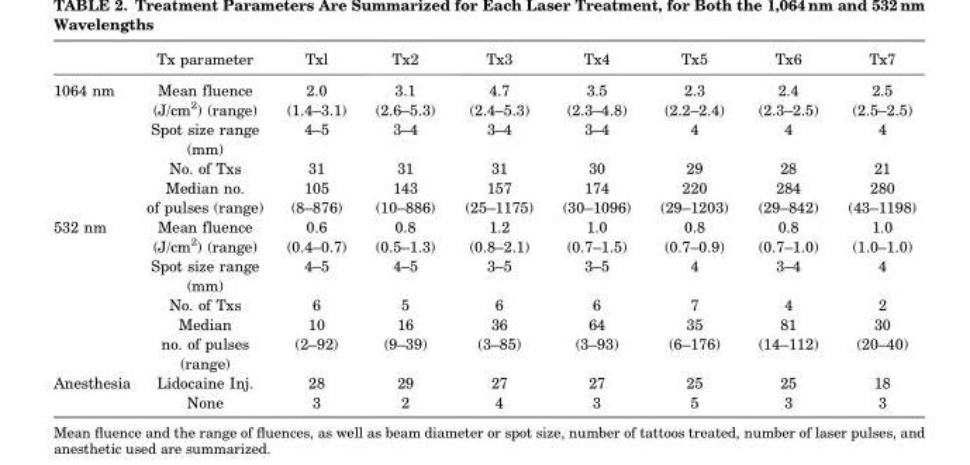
<table><thead><tr><td></td><td>Tx parameter</td><td>Txl</td><td>Tx2</td><td>Tx3</td><td>Tx4</td><td>Tx5</td><td>Tx6</td><td>Tx7</td></tr></thead><tbody><tr><td rowspan="4">1064 nm</td><td>Mean fluence (J/cm<sup>2</sup>) (range)</td><td>2.0 (1.4–3.1)</td><td>3.1 (2.6–5.3)</td><td>4.7 (2.4–5.3)</td><td>3.5 (2.3–4.8)</td><td>2.3 (2.2–2.4)</td><td>2.4 (2.3–2.5)</td><td>2.5 (2.5–2.5)</td></tr><tr><td>Spot size range (mm)</td><td>4–5</td><td>3–4</td><td>3–4</td><td>3–4</td><td>4</td><td>4</td><td>4</td></tr><tr><td>No. of Txs</td><td>31</td><td>31</td><td>31</td><td>30</td><td>29</td><td>28</td><td>21</td></tr><tr><td>Median no. of pulses (range)</td><td>105 (8–876)</td><td>143 (10–886)</td><td>157 (25–1175)</td><td>174 (30–1096)</td><td>220 (29–1203)</td><td>284 (29–842)</td><td>280 (43–1198)</td></tr><tr><td rowspan="4">532 nm</td><td>Mean fluence (J/cm<sup>2</sup>) (range)</td><td>0.6 (0.4–0.7)</td><td>0.8 (0.5–1.3)</td><td>1.2 (0.8–2.1)</td><td>1.0 (0.7–1.5)</td><td>0.8 (0.7–0.9)</td><td>0.8 (0.7–1.0)</td><td>1.0 (1.0–1.0)</td></tr><tr><td>Spot size range (mm)</td><td>4–5</td><td>4–5</td><td>3–5</td><td>3–5</td><td>4</td><td>3–4</td><td>4</td></tr><tr><td>No. of Txs</td><td>6</td><td>5</td><td>6</td><td>6</td><td>7</td><td>4</td><td>2</td></tr><tr><td>Median no. of pulses (range)</td><td>10 (2–92)</td><td>16 (9–39)</td><td>36 (3–85)</td><td>64 (3–93)</td><td>35 (6–176)</td><td>81 (14–112)</td><td>30 (20–40)</td></tr><tr><td rowspan="2">Anesthesia</td><td>Lidocaine Inj.</td><td>28</td><td>29</td><td>27</td><td>27</td><td>25</td><td>25</td><td>18</td></tr><tr><td>None</td><td>3</td><td>2</td><td>4</td><td>3</td><td>5</td><td>3</td><td>3</td></tr></tbody></table>